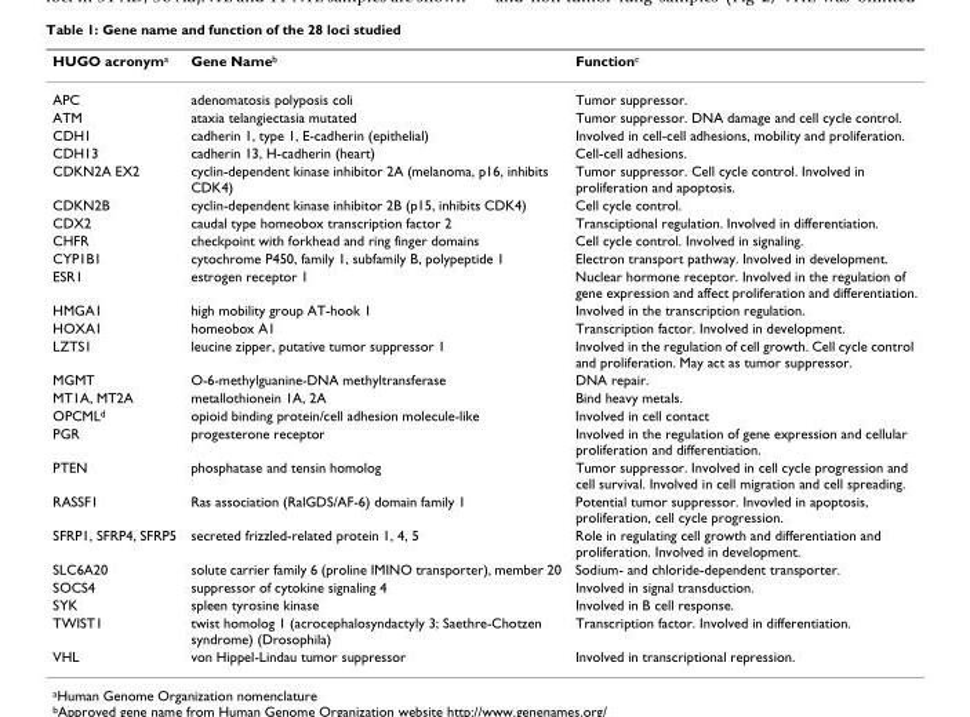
<table><thead><tr><td>HUGO acronym<sup>a</sup></td><td>Gene Name<sup>b</sup></td><td>Function<sup>c</sup></td></tr></thead><tbody><tr><td>APC</td><td>adenomatosis polyposis coli</td><td>Tumor suppressor.</td></tr><tr><td>ATM</td><td>ataxia telangiectasia mutated</td><td>Tumor suppressor. DNA damage and cell cycle control.</td></tr><tr><td>CDH1</td><td>cadherin 1, type 1, E-cadherin (epithelial)</td><td>Involved in cell-cell adhesions, mobility and proliferation.</td></tr><tr><td>CDH13</td><td>cadherin 13, H-cadherin (heart)</td><td>Cell-cell adhesions.</td></tr><tr><td>CDKN2A EX2</td><td>cyclin-dependent kinase inhibitor 2A (melanoma, p16, inhibits CDK4)</td><td>Tumor suppressor. Cell cycle control. Involved in proliferation and apoptosis.</td></tr><tr><td>CDKN2B</td><td>cyclin-dependent kinase inhibitor 2B (p15, inhibits CDK4)</td><td>Cell cycle control.</td></tr><tr><td>CDX2</td><td>caudal type homeobox transcription factor 2</td><td>Transciptional regulation. Involved in differentiation.</td></tr><tr><td>CHFR</td><td>checkpoint with forkhead and ring finger domains</td><td>Cell cycle control. Involved in signaling.</td></tr><tr><td>CYP1B1</td><td>cytochrome P450, family 1, subfamily B, polypeptide 1</td><td>Electron transport pathway. Involved in development.</td></tr><tr><td>ESR1</td><td>estrogen receptor 1</td><td>Nuclear hormone receptor. Involved in the regulation of gene expression and affect proliferation and differentiation.</td></tr><tr><td>HMGA1</td><td>high mobility group AT-hook 1</td><td>Involved in the transcription regulation.</td></tr><tr><td>HOXA1</td><td>homeobox A1</td><td>Transcription factor. Involved in development.</td></tr><tr><td>LZTS1</td><td>leucine zipper, putative tumor suppressor 1</td><td>Involved in the regulation of cell growth. Cell cycle control and proliferation. May act as tumor suppressor.</td></tr><tr><td>MGMT</td><td>O-6-methylguanine-DNA methyltransferase</td><td>DNA repair.</td></tr><tr><td>MT1A, MT2A</td><td>metallothionein 1A, 2A</td><td>Bind heavy metals.</td></tr><tr><td>OPCML<sup>d</sup></td><td>opioid binding protein/cell adhesion molecule-like</td><td>Involved in cell contact</td></tr><tr><td>PGR</td><td>progesterone receptor</td><td>Involved in the regulation of gene expression and cellular proliferation and differentiation.</td></tr><tr><td>PTEN</td><td>phosphatase and tensin homolog</td><td>Tumor suppressor. Involved in cell cycle progression and cell survival. Involved in cell migration and cell spreading.</td></tr><tr><td>RASSF1</td><td>Ras association (RalGDS/AF-6) domain family 1</td><td>Potential tumor suppressor. Invovled in apoptosis, proliferation, cell cycle progression.</td></tr><tr><td>SFRP1, SFRP4, SFRP5</td><td>secreted frizzled-related protein 1, 4, 5</td><td>Role in regulating cell growth and differentiation and proliferation. Involved in development.</td></tr><tr><td>SLC6A20</td><td>solute carrier family 6 (proline IMINO transporter), member 20</td><td>Sodium- and chloride-dependent transporter.</td></tr><tr><td>SOCS4</td><td>suppressor of cytokine signaling 4</td><td>Involved in signal transduction.</td></tr><tr><td>SYK</td><td>spleen tyrosine kinase</td><td>Involved in B cell response.</td></tr><tr><td>TWIST1</td><td>twist homolog 1 (acrocephalosyndactyly 3; Saethre-Chotzen syndrome) (Drosophila)</td><td>Transcription factor. Involved in differentiation.</td></tr><tr><td>VHL</td><td>von Hippel-Lindau tumor suppressor</td><td>Involved in transcriptional repression.</td></tr></tbody></table>